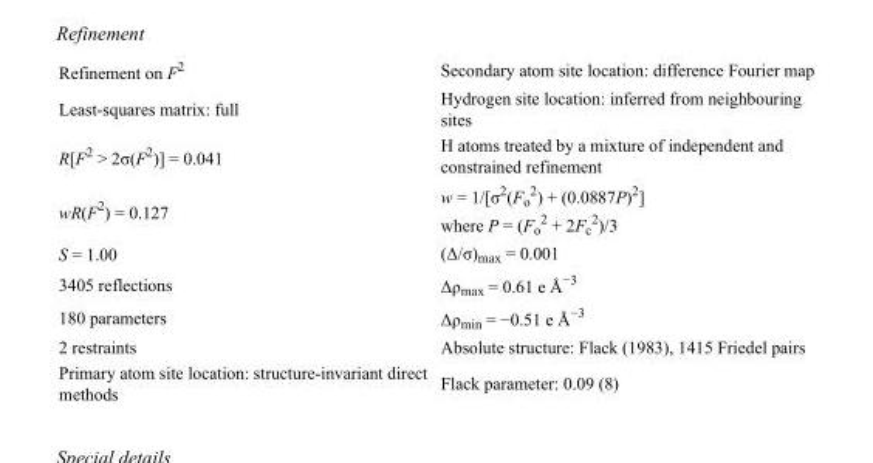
<table><tbody><tr><td>Refinement on F<sup>2</sup></td><td>Secondary atom site location: difference Fourier map</td></tr><tr><td>Least-squares matrix: full</td><td>Hydrogen site location: inferred from neighbouring sites</td></tr><tr><td>R[F<sup>2</sup> &gt; 2σ(F<sup>2</sup>)] = 0.041</td><td>H atoms treated by a mixture of independent and constrained refinement</td></tr><tr><td>wR(F<sup>2</sup>) = 0.127</td><td>w = 1/[σ<sup>2</sup>(F<sub>o</sub> <sup>2</sup>) + (0.0887P)<sup>2</sup>] where P = (F<sub>o</sub> <sup>2</sup> + 2F<sub>c</sub> <sup>2</sup>)/3</td></tr><tr><td>S = 1.00</td><td>(Δ/σ)<sub>max</sub> = 0.001</td></tr><tr><td>3405 reflections</td><td>Δρ<sub>max</sub> = 0.61 e Å<sup>−3</sup></td></tr><tr><td>180 parameters</td><td>Δρ<sub>min</sub> = −0.51 e Å<sup>−3</sup></td></tr><tr><td>2 restraints</td><td>Absolute structure: Flack (1983), 1415 Friedel pairs</td></tr><tr><td>Primary atom site location: structure-invariant direct methods</td><td>Flack parameter: 0.09 (8)</td></tr></tbody></table>